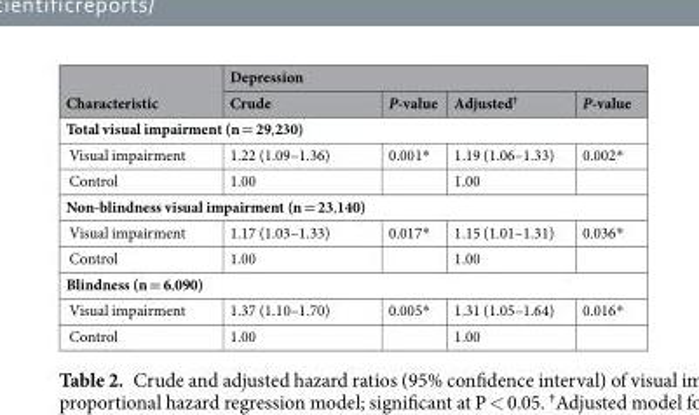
<table><thead><tr><td rowspan="2">Characteristic</td><td colspan="4">Depression</td></tr><tr><td>Crude</td><td>P-value</td><td>Adjusted<sup>†</sup></td><td>P-value</td></tr></thead><tbody><tr><td colspan="5">Total visual impairment (n = 29,230)</td></tr><tr><td>Visual impairment</td><td>1.22 (1.09–1.36)</td><td>0.001*</td><td>1.19 (1.06–1.33)</td><td>0.002*</td></tr><tr><td>Control</td><td>1.00</td><td></td><td>1.00</td><td></td></tr><tr><td colspan="5">Non-blindness visual impairment (n = 23,140)</td></tr><tr><td>Visual impairment</td><td>1.17 (1.03–1.33)</td><td>0.017*</td><td>1.15 (1.01–1.31)</td><td>0.036*</td></tr><tr><td>Control</td><td>1.00</td><td></td><td>1.00</td><td></td></tr><tr><td colspan="5">Blindness (n = 6,090)</td></tr><tr><td>Visual impairment</td><td>1.37 (1.10–1.70)</td><td>0.005*</td><td>1.31 (1.05–1.64)</td><td>0.016*</td></tr><tr><td>Control</td><td>1.00</td><td></td><td>1.00</td><td></td></tr></tbody></table>